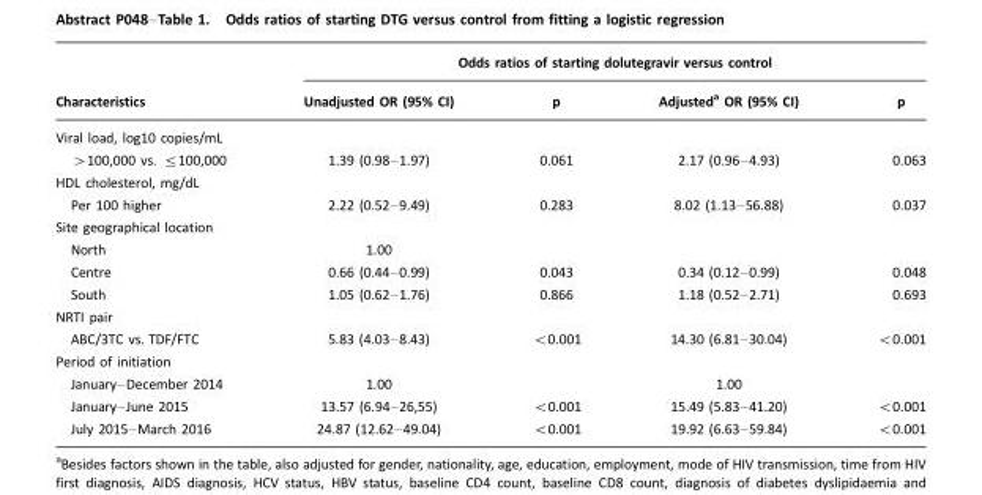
<table><thead><tr><td rowspan="2">Characteristics</td><td colspan="4">Odds ratios of starting dolutegravir versus control</td></tr><tr><td>Unadjusted OR (95% CI)</td><td>p</td><td>Adjusteda OR (95% CI)</td><td>p</td></tr></thead><tbody><tr><td colspan="5">Viral load, log10 copies/mL</td></tr><tr><td>&gt;100,000 vs. ≤100,000</td><td>1.39 (0.98–1.97)</td><td>0.061</td><td>2.17 (0.96–4.93)</td><td>0.063</td></tr><tr><td colspan="5">HDL cholesterol, mg/dL</td></tr><tr><td>Per 100 higher</td><td>2.22 (0.52–9.49)</td><td>0.283</td><td>8.02 (1.13–56.88)</td><td>0.037</td></tr><tr><td colspan="5">Site geographical location</td></tr><tr><td>North</td><td>1.00</td><td></td><td></td><td></td></tr><tr><td>Centre</td><td>0.66 (0.44–0.99)</td><td>0.043</td><td>0.34 (0.12–0.99)</td><td>0.048</td></tr><tr><td>South</td><td>1.05 (0.62–1.76)</td><td>0.866</td><td>1.18 (0.52–2.71)</td><td>0.693</td></tr><tr><td colspan="5">NRTI pair</td></tr><tr><td>ABC/3TC vs. TDF/FTC</td><td>5.83 (4.03–8.43)</td><td>&lt;0.001</td><td>14.30 (6.81–30.04)</td><td>&lt;0.001</td></tr><tr><td colspan="5">Period of initiation</td></tr><tr><td>January–December 2014</td><td>1.00</td><td></td><td>1.00</td><td></td></tr><tr><td>January–June 2015</td><td>13.57 (6.94–26,55)</td><td>&lt;0.001</td><td>15.49 (5.83–41.20)</td><td>&lt;0.001</td></tr><tr><td>July 2015–March 2016</td><td>24.87 (12.62–49.04)</td><td>&lt;0.001</td><td>19.92 (6.63–59.84)</td><td>&lt;0.001</td></tr></tbody></table>